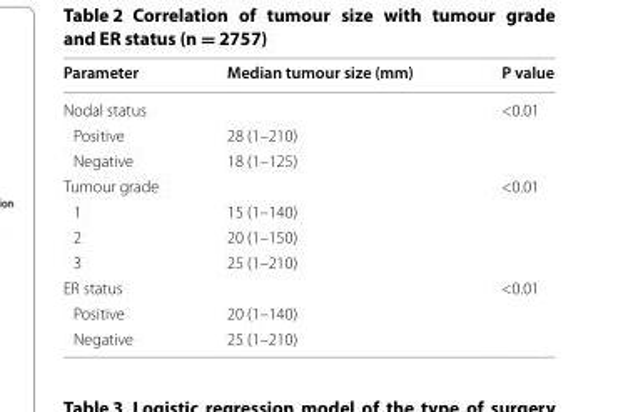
<table><thead><tr><td>Parameter</td><td>Median tumour size (mm)</td><td>P value</td></tr></thead><tbody><tr><td colspan="2">Nodal status</td><td rowspan="3">&lt;0.01</td></tr><tr><td>Positive</td><td>28 (1–210)</td></tr><tr><td>Negative</td><td>18 (1–125)</td></tr><tr><td colspan="2">Tumour grade</td><td rowspan="4">&lt;0.01</td></tr><tr><td>1</td><td>15 (1–140)</td></tr><tr><td>2</td><td>20 (1–150)</td></tr><tr><td>3</td><td>25 (1–210)</td></tr><tr><td colspan="2">ER status</td><td rowspan="3">&lt;0.01</td></tr><tr><td>Positive</td><td>20 (1–140)</td></tr><tr><td>Negative</td><td>25 (1–210)</td></tr></tbody></table>